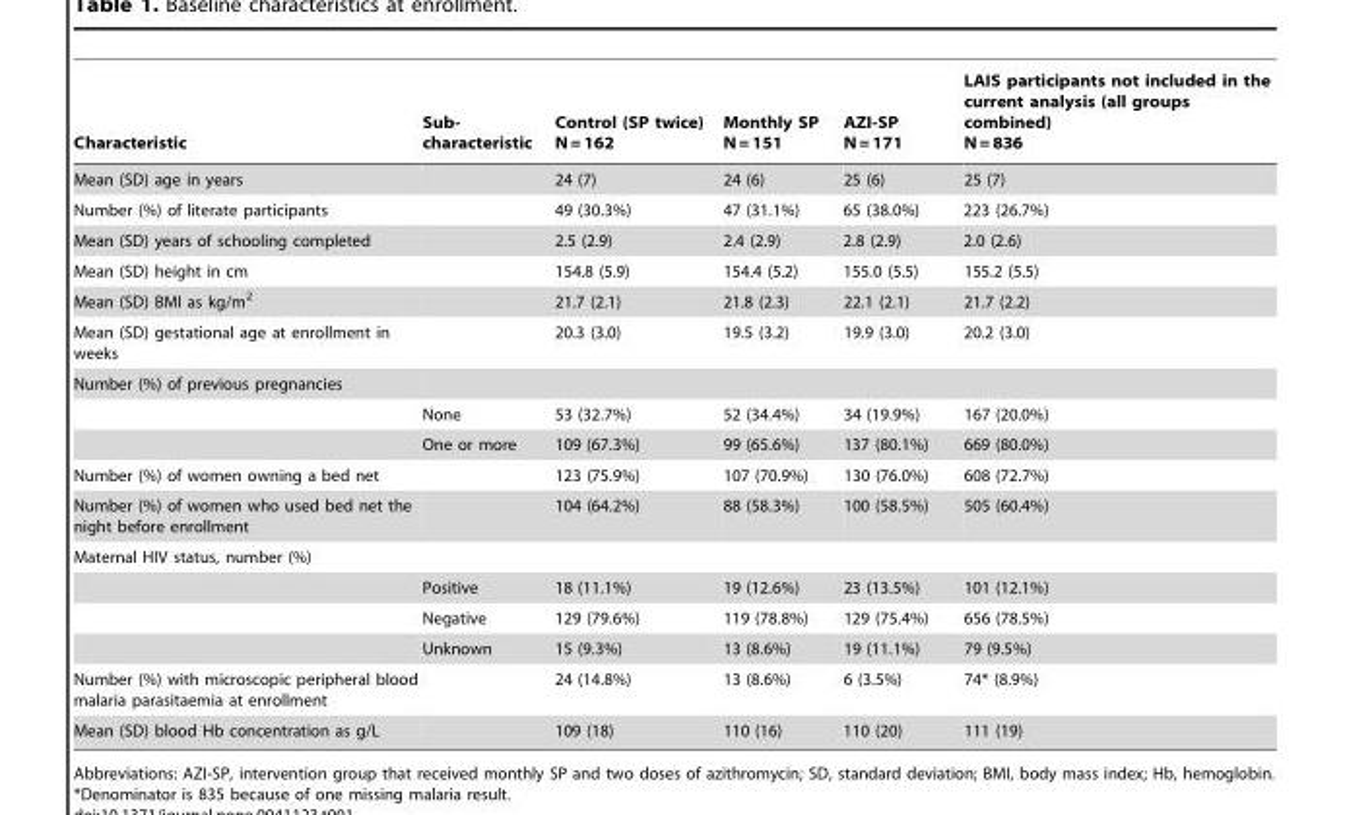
<table><thead><tr><td>Characteristic</td><td>Sub- characteristic</td><td>Control (SP twice) N = 162</td><td>Monthly SP N = 151</td><td>AZI-SP N = 171</td><td>LAIS participants not included in the current analysis (all groups combined) N = 836</td></tr></thead><tbody><tr><td>Mean (SD) age in years</td><td></td><td>24 (7)</td><td>24 (6)</td><td>25 (6)</td><td>25 (7)</td></tr><tr><td>Number (%) of literate participants</td><td></td><td>49 (30.3%)</td><td>47 (31.1%)</td><td>65 (38.0%)</td><td>223 (26.7%)</td></tr><tr><td>Mean (SD) years of schooling completed</td><td></td><td>2.5 (2.9)</td><td>2.4 (2.9)</td><td>2.8 (2.9)</td><td>2.0 (2.6)</td></tr><tr><td>Mean (SD) height in cm</td><td></td><td>154.8 (5.9)</td><td>154.4 (5.2)</td><td>155.0 (5.5)</td><td>155.2 (5.5)</td></tr><tr><td>Mean (SD) BMI as kg/m<sup>2</sup></td><td></td><td>21.7 (2.1)</td><td>21.8 (2.3)</td><td>22.1 (2.1)</td><td>21.7 (2.2)</td></tr><tr><td>Mean (SD) gestational age at enrollment in weeks</td><td></td><td>20.3 (3.0)</td><td>19.5 (3.2)</td><td>19.9 (3.0)</td><td>20.2 (3.0)</td></tr><tr><td colspan="6">Number (%) of previous pregnancies</td></tr><tr><td></td><td>None</td><td>53 (32.7%)</td><td>52 (34.4%)</td><td>34 (19.9%)</td><td>167 (20.0%)</td></tr><tr><td></td><td>One or more</td><td>109 (67.3%)</td><td>99 (65.6%)</td><td>137 (80.1%)</td><td>669 (80.0%)</td></tr><tr><td>Number (%) of women owning a bed net</td><td></td><td>123 (75.9%)</td><td>107 (70.9%)</td><td>130 (76.0%)</td><td>608 (72.7%)</td></tr><tr><td>Number (%) of women who used bed net the night before enrollment</td><td></td><td>104 (64.2%)</td><td>88 (58.3%)</td><td>100 (58.5%)</td><td>505 (60.4%)</td></tr><tr><td colspan="6">Maternal HIV status, number (%)</td></tr><tr><td></td><td>Positive</td><td>18 (11.1%)</td><td>19 (12.6%)</td><td>23 (13.5%)</td><td>101 (12.1%)</td></tr><tr><td></td><td>Negative</td><td>129 (79.6%)</td><td>119 (78.8%)</td><td>129 (75.4%)</td><td>656 (78.5%)</td></tr><tr><td></td><td>Unknown</td><td>15 (9.3%)</td><td>13 (8.6%)</td><td>19 (11.1%)</td><td>79 (9.5%)</td></tr><tr><td>Number (%) with microscopic peripheral blood malaria parasitaemia at enrollment</td><td></td><td>24 (14.8%)</td><td>13 (8.6%)</td><td>6 (3.5%)</td><td>74* (8.9%)</td></tr><tr><td>Mean (SD) blood Hb concentration as g/L</td><td></td><td>109 (18)</td><td>110 (16)</td><td>110 (20)</td><td>111 (19)</td></tr></tbody></table>